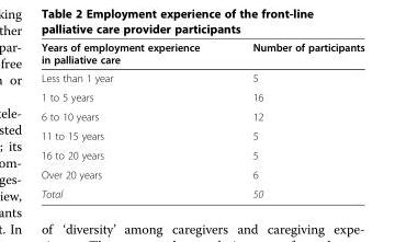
<table><thead><tr><td>Years of employment experience in palliative care</td><td>Number of participants</td></tr></thead><tbody><tr><td>Less than 1 year</td><td>5</td></tr><tr><td>1 to 5 years</td><td>16</td></tr><tr><td>6 to 10 years</td><td>12</td></tr><tr><td>11 to 15 years</td><td>5</td></tr><tr><td>16 to 20 years</td><td>5</td></tr><tr><td>Over 20 years</td><td>6</td></tr><tr><td>Total</td><td>50</td></tr></tbody></table>